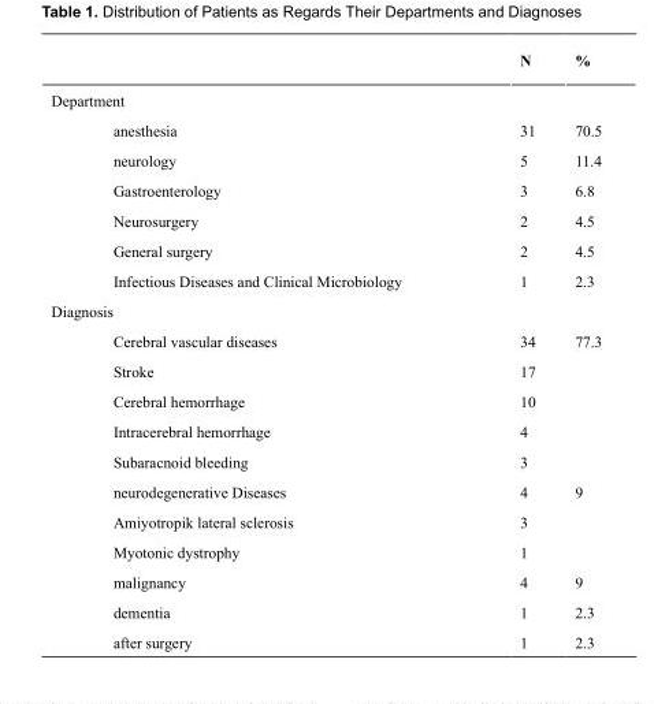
<table><thead><tr><td></td><td>N</td><td>%</td></tr></thead><tbody><tr><td colspan="3">Department</td></tr><tr><td>anesthesia</td><td>31</td><td>70.5</td></tr><tr><td>neurology</td><td>5</td><td>11.4</td></tr><tr><td>Gastroenterology</td><td>3</td><td>6.8</td></tr><tr><td>Neurosurgery</td><td>2</td><td>4.5</td></tr><tr><td>General surgery</td><td>2</td><td>4.5</td></tr><tr><td>Infectious Diseases and Clinical Microbiology</td><td>1</td><td>2.3</td></tr><tr><td colspan="3">Diagnosis</td></tr><tr><td>Cerebral vascular diseases</td><td>34</td><td>77.3</td></tr><tr><td>Stroke</td><td>17</td><td></td></tr><tr><td>Cerebral hemorrhage</td><td>10</td><td></td></tr><tr><td>Intracerebral hemorrhage</td><td>4</td><td></td></tr><tr><td>Subaracnoid bleeding</td><td>3</td><td></td></tr><tr><td>neurodegenerative Diseases</td><td>4</td><td>9</td></tr><tr><td>Amiyotropik lateral sclerosis</td><td>3</td><td></td></tr><tr><td>Myotonic dystrophy</td><td>1</td><td></td></tr><tr><td>malignancy</td><td>4</td><td>9</td></tr><tr><td>dementia</td><td>1</td><td>2.3</td></tr><tr><td>after surgery</td><td>1</td><td>2.3</td></tr></tbody></table>